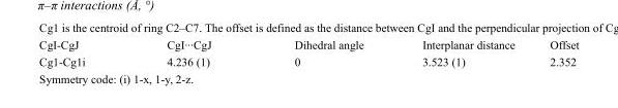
<table><tbody><tr><td>CgI-CgJ</td><td>CgI···CgJ</td><td>Dihedral angle</td><td>Interplanar distance</td><td>Offset</td></tr><tr><td>Cg1-Cg1i</td><td>4.236 (1)</td><td>0</td><td>3.523 (1)</td><td>2.352</td></tr></tbody></table>